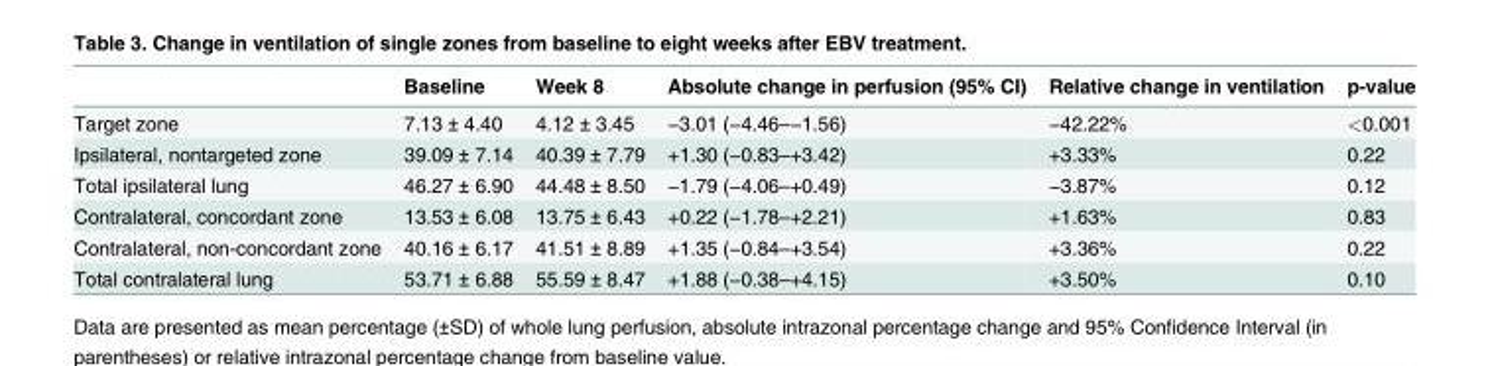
<table><thead><tr><td></td><td>Baseline</td><td>Week 8</td><td>Absolute change in perfusion (95% CI)</td><td>Relative change in ventilation</td><td>p-value</td></tr></thead><tbody><tr><td>Target zone</td><td>7.13 ± 4.40</td><td>4.12 ± 3.45</td><td>−3.01 (−4.46–−1.56)</td><td>−42.22%</td><td>&lt;0.001</td></tr><tr><td>Ipsilateral, nontargeted zone</td><td>39.09 ± 7.14</td><td>40.39 ± 7.79</td><td>+1.30 (−0.83–+3.42)</td><td>+3.33%</td><td>0.22</td></tr><tr><td>Total ipsilateral lung</td><td>46.27 ± 6.90</td><td>44.48 ± 8.50</td><td>−1.79 (−4.06–+0.49)</td><td>−3.87%</td><td>0.12</td></tr><tr><td>Contralateral, concordant zone</td><td>13.53 ± 6.08</td><td>13.75 ± 6.43</td><td>+0.22 (−1.78–+2.21)</td><td>+1.63%</td><td>0.83</td></tr><tr><td>Contralateral, non-concordant zone</td><td>40.16 ± 6.17</td><td>41.51 ± 8.89</td><td>+1.35 (−0.84–+3.54)</td><td>+3.36%</td><td>0.22</td></tr><tr><td>Total contralateral lung</td><td>53.71 ± 6.88</td><td>55.59 ± 8.47</td><td>+1.88 (−0.38–+4.15)</td><td>+3.50%</td><td>0.10</td></tr></tbody></table>